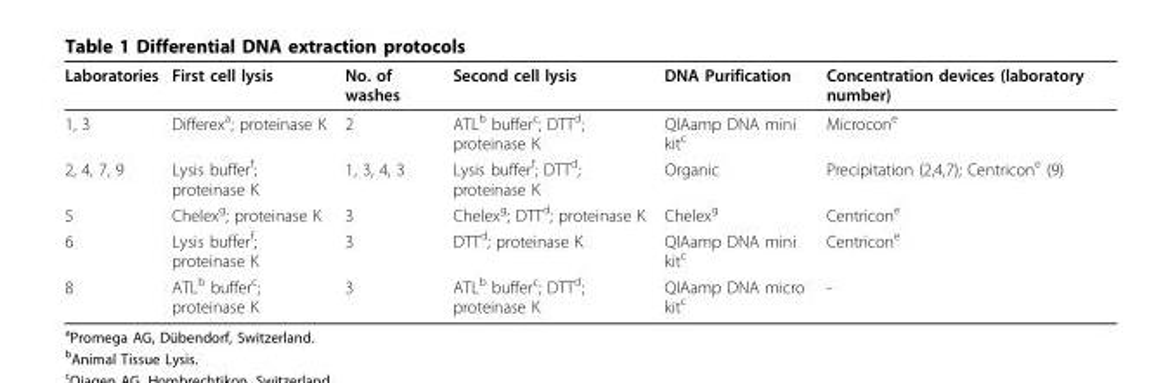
<table><thead><tr><td>Laboratories</td><td>First cell lysis</td><td>No. of washes</td><td>Second cell lysis</td><td>DNA Purification</td><td>Concentration devices (laboratory number)</td></tr></thead><tbody><tr><td>1, 3</td><td>Differex<sup>a</sup>; proteinase K</td><td>2</td><td>ATL<sup>b</sup> buffer<sup>c</sup>; DTT<sup>d</sup>; proteinase K</td><td>QIAamp DNA mini kit<sup>c</sup></td><td>Microcon<sup>e</sup></td></tr><tr><td>2, 4, 7, 9</td><td>Lysis buffer<sup>f</sup>; proteinase K</td><td>1, 3, 4, 3</td><td>Lysis buffer<sup>f</sup>; DTT<sup>d</sup>; proteinase K</td><td>Organic</td><td>Precipitation (2,4,7); Centricon<sup>e</sup> (9)</td></tr><tr><td>5</td><td>Chelex<sup>g</sup>; proteinase K</td><td>3</td><td>Chelex<sup>g</sup>; DTT<sup>d</sup>; proteinase K</td><td>Chelex<sup>g</sup></td><td>Centricon<sup>e</sup></td></tr><tr><td>6</td><td>Lysis buffer<sup>f</sup>; proteinase K</td><td>3</td><td>DTT<sup>d</sup>; proteinase K</td><td>QIAamp DNA mini kit<sup>c</sup></td><td>Centricon<sup>e</sup></td></tr><tr><td>8</td><td>ATL<sup>b</sup> buffer<sup>c</sup>; proteinase K</td><td>3</td><td>ATL<sup>b</sup> buffer<sup>c</sup>; DTT<sup>d</sup>; proteinase K</td><td>QIAamp DNA micro kit<sup>c</sup></td><td>-</td></tr></tbody></table>